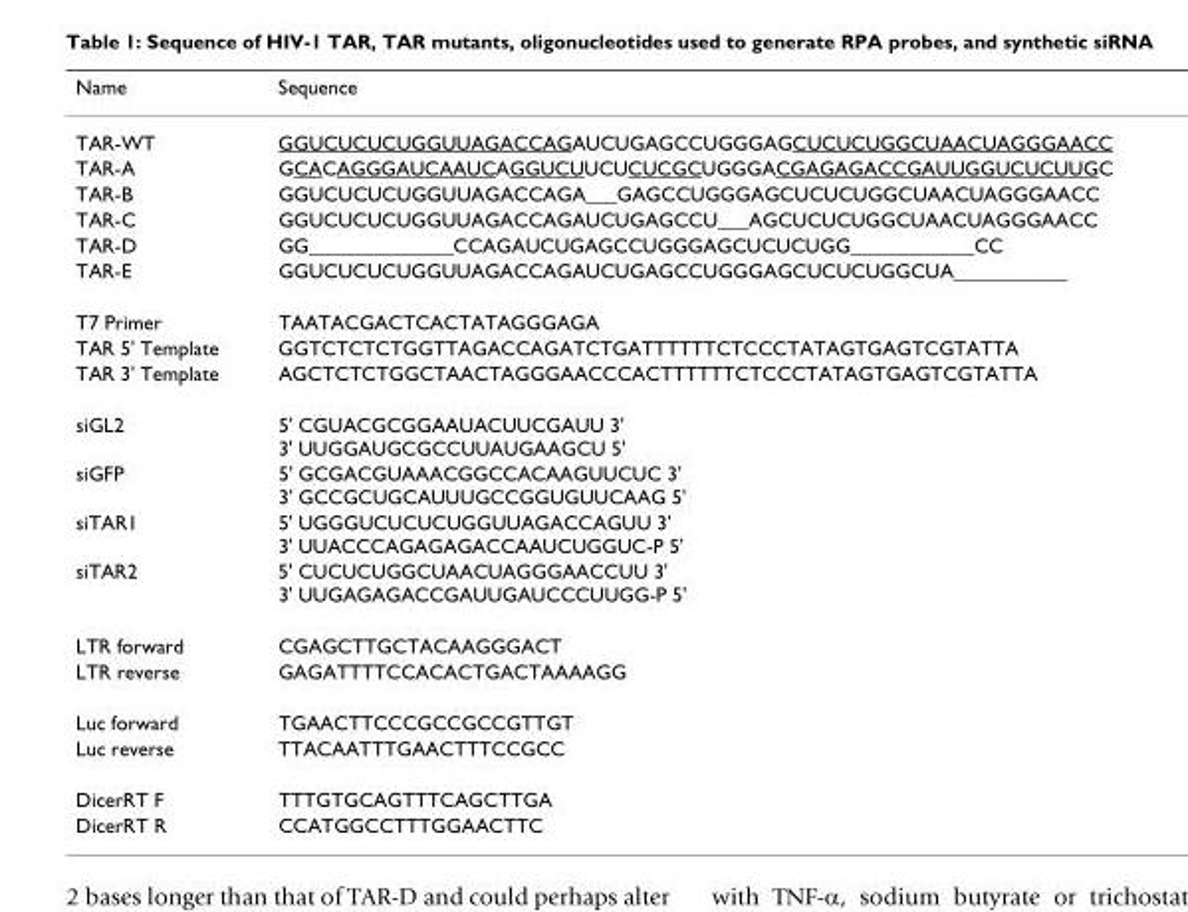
<table><thead><tr><td>Name</td><td>Sequence</td></tr></thead><tbody><tr><td>TAR-WT</td><td>GGUCUCUCUGGUUAGACCAGAUCUGAGCCUGGGAGCUCUCUGGCUAACUAGGGAACC</td></tr><tr><td>TAR-A</td><td>GCACAGGGAUCAAUCAGGUCUUCUCUCGCUGGGACGAGAGACCGAUUGGUCUCUUGC</td></tr><tr><td>TAR-B</td><td>GGUCUCUCUGGUUAGACCAGA___GAGCCUGGGAGCUCUCUGGCUAACUAGGGAACC</td></tr><tr><td>TAR-C</td><td>GGUCUCUCUGGUUAGACCAGAUCUGAGCCU___AGCUCUCUGGCUAACUAGGGAACC</td></tr><tr><td>TAR-D</td><td>GG______________CCAGAUCUGAGCCUGGGAGCUCUCUGG____________CC</td></tr><tr><td>TAR-E</td><td>GGUCUCUCUGGUUAGACCAGAUCUGAGCCUGGGAGCUCUCUGGCUA___________</td></tr><tr><td>T7 Primer</td><td>TAATACGACTCACTATAGGGAGA</td></tr><tr><td>TAR 5&#x27; Template</td><td>GGTCTCTCTGGTTAGACCAGATCTGATTTTTTCTCCCTATAGTGAGTCGTATTA</td></tr><tr><td>TAR 3&#x27; Template</td><td>AGCTCTCTGGCTAACTAGGGAACCCACTTTTTTCTCCCTATAGTGAGTCGTATTA</td></tr><tr><td>siGL2</td><td>5&#x27; CGUACGCGGAAUACUUCGAUU 3&#x27; 3&#x27; UUGGAUGCGCCUUAUGAAGCU 5&#x27;</td></tr><tr><td>siGFP</td><td>5&#x27; GCGACGUAAACGGCCACAAGUUCUC 3&#x27; 3&#x27; GCCGCUGCAUUUGCCGGUGUUCAAG 5&#x27;</td></tr><tr><td>siTAR1</td><td>5&#x27; UGGGUCUCUCUGGUUAGACCAGUU 3&#x27; 3&#x27; UUACCCAGAGAGACCAAUCUGGUC-P 5&#x27;</td></tr><tr><td>siTAR2</td><td>5&#x27; CUCUCUGGCUAACUAGGGAACCUU 3&#x27; 3&#x27; UUGAGAGACCGAUUGAUCCCUUGG-P 5&#x27;</td></tr><tr><td>LTR forward</td><td>CGAGCTTGCTACAAGGGACT</td></tr><tr><td>LTR reverse</td><td>GAGATTTTCCACACTGACTAAAAGG</td></tr><tr><td>Luc forward</td><td>TGAACTTCCCGCCGCCGTTGT</td></tr><tr><td>Luc reverse</td><td>TTACAATTTGAACTTTCCGCC</td></tr><tr><td>DicerRT F</td><td>TTTGTGCAGTTTCAGCTTGA</td></tr><tr><td>DicerRT R</td><td>CCATGGCCTTTGGAACTTC</td></tr></tbody></table>